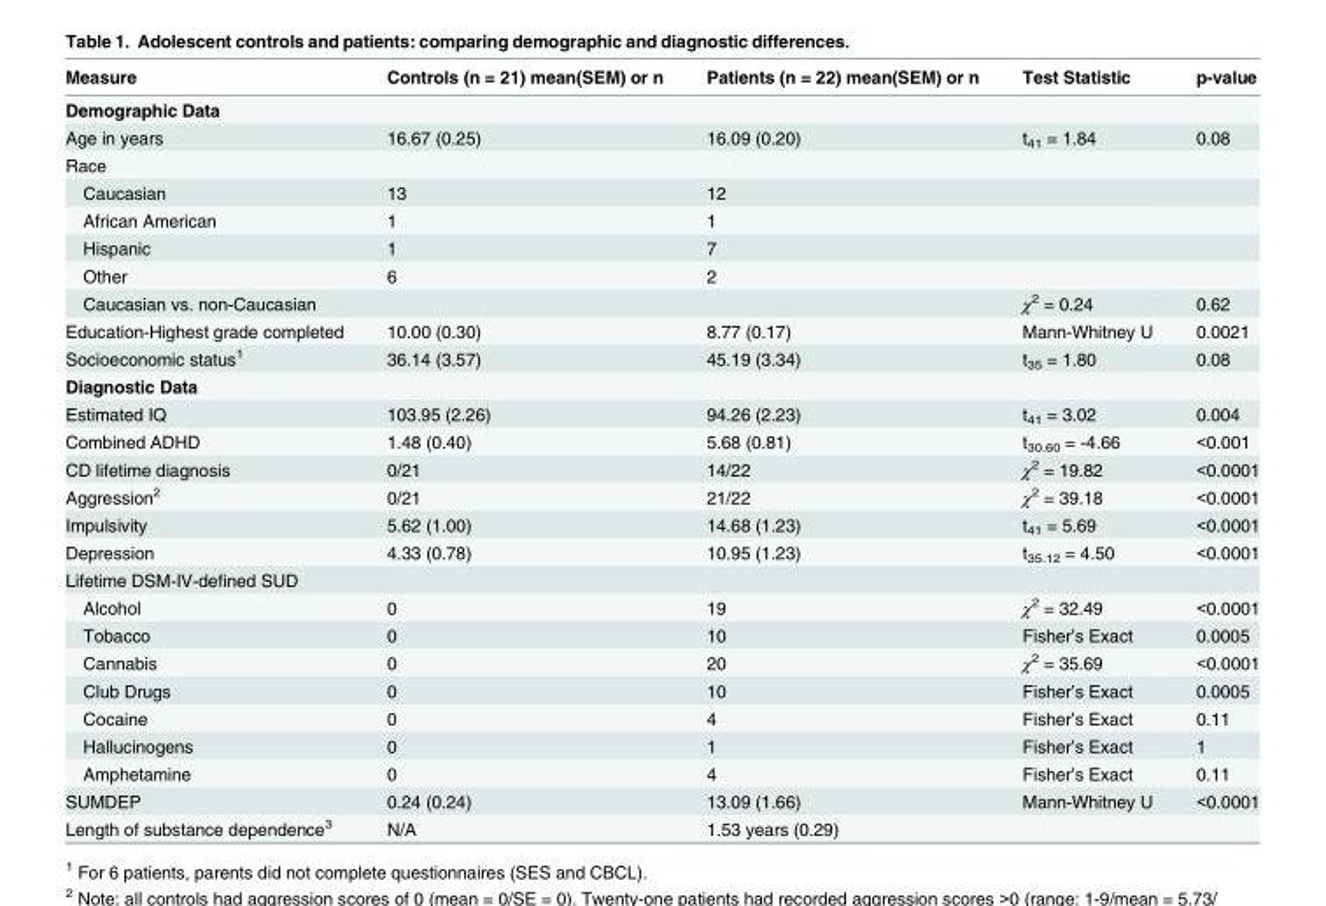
<table><thead><tr><td>Measure</td><td>Controls (n = 21) mean(SEM) or n</td><td>Patients (n = 22) mean(SEM) or n</td><td>Test Statistic</td><td>p-value</td></tr></thead><tbody><tr><td colspan="5">Demographic Data</td></tr><tr><td>Age in years</td><td>16.67 (0.25)</td><td>16.09 (0.20)</td><td>t<sub>41</sub> = 1.84</td><td>0.08</td></tr><tr><td colspan="5">Race</td></tr><tr><td>Caucasian</td><td>13</td><td>12</td><td></td><td></td></tr><tr><td>African American</td><td>1</td><td>1</td><td></td><td></td></tr><tr><td>Hispanic</td><td>1</td><td>7</td><td></td><td></td></tr><tr><td>Other</td><td>6</td><td>2</td><td></td><td></td></tr><tr><td>Caucasian vs. non-Caucasian</td><td></td><td></td><td>χ<sup>2</sup> = 0.24</td><td>0.62</td></tr><tr><td>Education-Highest grade completed</td><td>10.00 (0.30)</td><td>8.77 (0.17)</td><td>Mann-Whitney U</td><td>0.0021</td></tr><tr><td>Socioeconomic status<sup>1</sup></td><td>36.14 (3.57)</td><td>45.19 (3.34)</td><td>t<sub>35</sub> = 1.80</td><td>0.08</td></tr><tr><td colspan="5">Diagnostic Data</td></tr><tr><td>Estimated IQ</td><td>103.95 (2.26)</td><td>94.26 (2.23)</td><td>t<sub>41</sub> = 3.02</td><td>0.004</td></tr><tr><td>Combined ADHD</td><td>1.48 (0.40)</td><td>5.68 (0.81)</td><td>t<sub>30.60</sub> = -4.66</td><td>&lt;0.001</td></tr><tr><td>CD lifetime diagnosis</td><td>0/21</td><td>14/22</td><td>χ<sup>2</sup> = 19.82</td><td>&lt;0.0001</td></tr><tr><td>Aggression<sup>2</sup></td><td>0/21</td><td>21/22</td><td>χ<sup>2</sup> = 39.18</td><td>&lt;0.0001</td></tr><tr><td>Impulsivity</td><td>5.62 (1.00)</td><td>14.68 (1.23)</td><td>t<sub>41</sub> = 5.69</td><td>&lt;0.0001</td></tr><tr><td>Depression</td><td>4.33 (0.78)</td><td>10.95 (1.23)</td><td>t<sub>35.12</sub> = 4.50</td><td>&lt;0.0001</td></tr><tr><td colspan="5">Lifetime DSM-IV-defined SUD</td></tr><tr><td>Alcohol</td><td>0</td><td>19</td><td>χ<sup>2</sup> = 32.49</td><td>&lt;0.0001</td></tr><tr><td>Tobacco</td><td>0</td><td>10</td><td>Fisher’s Exact</td><td>0.0005</td></tr><tr><td>Cannabis</td><td>0</td><td>20</td><td>χ<sup>2</sup> = 35.69</td><td>&lt;0.0001</td></tr><tr><td>Club Drugs</td><td>0</td><td>10</td><td>Fisher’s Exact</td><td>0.0005</td></tr><tr><td>Cocaine</td><td>0</td><td>4</td><td>Fisher’s Exact</td><td>0.11</td></tr><tr><td>Hallucinogens</td><td>0</td><td>1</td><td>Fisher’s Exact</td><td>1</td></tr><tr><td>Amphetamine</td><td>0</td><td>4</td><td>Fisher’s Exact</td><td>0.11</td></tr><tr><td>SUMDEP</td><td>0.24 (0.24)</td><td>13.09 (1.66)</td><td>Mann-Whitney U</td><td>&lt;0.0001</td></tr><tr><td>Length of substance dependence<sup>3</sup></td><td>N/A</td><td>1.53 years (0.29)</td><td></td><td></td></tr></tbody></table>